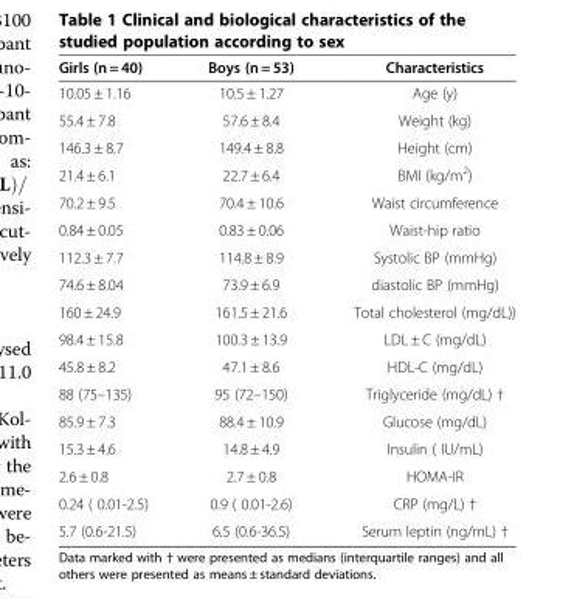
<table><thead><tr><td>Girls (n = 40)</td><td>Boys (n = 53)</td><td>Characteristics</td></tr></thead><tbody><tr><td>10.05 ± 1.16</td><td>10.5 ± 1.27</td><td>Age (y)</td></tr><tr><td>55.4 ± 7.8</td><td>57.6 ± 8.4</td><td>Weight (kg)</td></tr><tr><td>146.3 ± 8.7</td><td>149.4 ± 8.8</td><td>Height (cm)</td></tr><tr><td>21.4 ± 6.1</td><td>22.7 ± 6.4</td><td>BMI (kg/m<sup>2</sup>)</td></tr><tr><td>70.2 ± 9.5</td><td>70.4 ± 10.6</td><td>Waist circumference</td></tr><tr><td>0.84 ± 0.05</td><td>0.83 ± 0.06</td><td>Waist-hip ratio</td></tr><tr><td>112.3 ± 7.7</td><td>114.8 ± 8.9</td><td>Systolic BP (mmHg)</td></tr><tr><td>74.6 ± 8.04</td><td>73.9 ± 6.9</td><td>diastolic BP (mmHg)</td></tr><tr><td>160 ± 24.9</td><td>161.5 ± 21.6</td><td>Total cholesterol (mg/dL))</td></tr><tr><td>98.4 ± 15.8</td><td>100.3 ± 13.9</td><td>LDL ± C (mg/dL)</td></tr><tr><td>45.8 ± 8.2</td><td>47.1 ± 8.6</td><td>HDL-C (mg/dL)</td></tr><tr><td>88 (75–135)</td><td>95 (72–150)</td><td>Triglyceride (mg/dL) †</td></tr><tr><td>85.9 ± 7.3</td><td>88.4 ± 10.9</td><td>Glucose (mg/dL)</td></tr><tr><td>15.3 ± 4.6</td><td>14.8 ± 4.9</td><td>Insulin ( IU/mL)</td></tr><tr><td>2.6 ± 0.8</td><td>2.7 ± 0.8</td><td>HOMA-IR</td></tr><tr><td>0.24 ( 0.01-2.5)</td><td>0.9 ( 0.01-2.6)</td><td>CRP (mg/L) †</td></tr><tr><td>5.7 (0.6-21.5)</td><td>6.5 (0.6-36.5)</td><td>Serum leptin (ng/mL) †</td></tr></tbody></table>